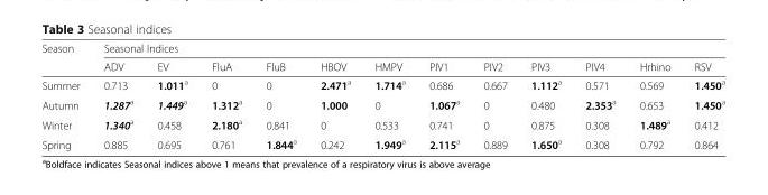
<table><thead><tr><td rowspan="2">Season</td><td colspan="12">Seasonal Indices</td></tr><tr><td>ADV</td><td>EV</td><td>FluA</td><td>FluB</td><td>HBOV</td><td>HMPV</td><td>PIV1</td><td>PIV2</td><td>PIV3</td><td>PIV4</td><td>Hrhino</td><td>RSV</td></tr></thead><tbody><tr><td>Summer</td><td>0.713</td><td>1.011<sup>a</sup></td><td>0</td><td>0</td><td>2.471<sup>a</sup></td><td>1.714<sup>a</sup></td><td>0.686</td><td>0.667</td><td>1.112<sup>a</sup></td><td>0.571</td><td>0.569</td><td>1.450<sup>a</sup></td></tr><tr><td>Autumn</td><td>1.287<sup>a</sup></td><td>1.449<sup>a</sup></td><td>1.312<sup>a</sup></td><td>0</td><td>1.000</td><td>0</td><td>1.067<sup>a</sup></td><td>0</td><td>0.480</td><td>2.353<sup>a</sup></td><td>0.653</td><td>1.450<sup>a</sup></td></tr><tr><td>Winter</td><td>1.340<sup>a</sup></td><td>0.458</td><td>2.180<sup>a</sup></td><td>0.841</td><td>0</td><td>0.533</td><td>0.741</td><td>0</td><td>0.875</td><td>0.308</td><td>1.489<sup>a</sup></td><td>0.412</td></tr><tr><td>Spring</td><td>0.885</td><td>0.695</td><td>0.761</td><td>1.844<sup>a</sup></td><td>0.242</td><td>1.949<sup>a</sup></td><td>2.115<sup>a</sup></td><td>0.889</td><td>1.650<sup>a</sup></td><td>0.308</td><td>0.792</td><td>0.864</td></tr></tbody></table>